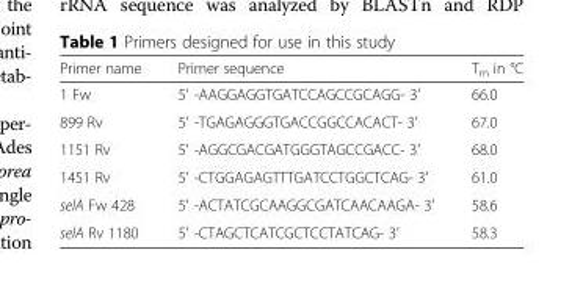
<table><thead><tr><td>Primer name</td><td>Primer sequence</td><td>T<sub>m</sub> in °C</td></tr></thead><tbody><tr><td>1 Fw</td><td>5′ -AAGGAGGTGATCCAGCCGCAGG- 3′</td><td>66.0</td></tr><tr><td>899 Rv</td><td>5′ -TGAGAGGGTGACCGGCCACACT- 3′</td><td>67.0</td></tr><tr><td>1151 Rv</td><td>5′ -AGGCGACGATGGGTAGCCGACC- 3′</td><td>68.0</td></tr><tr><td>1451 Rv</td><td>5′ -CTGGAGAGTTTGATCCTGGCTCAG- 3′</td><td>61.0</td></tr><tr><td>selA Fw 428</td><td>5′ -ACTATCGCAAGGCGATCAACAAGA- 3′</td><td>58.6</td></tr><tr><td>selA Rv 1180</td><td>5′ -CTAGCTCATCGCTCCTATCAG- 3′</td><td>58.3</td></tr></tbody></table>